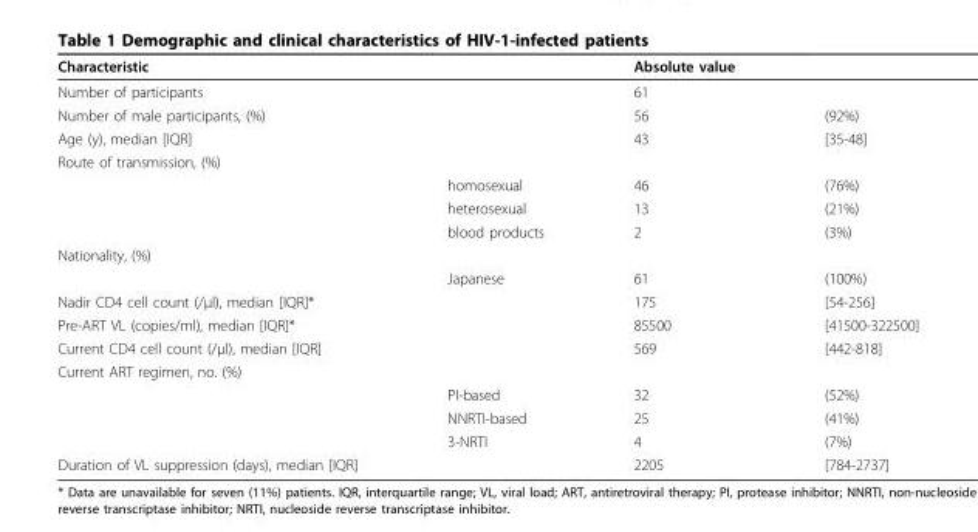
<table><thead><tr><td>Characteristic</td><td></td><td>Absolute value</td><td></td></tr></thead><tbody><tr><td>Number of participants</td><td></td><td>61</td><td></td></tr><tr><td>Number of male participants, (%)</td><td></td><td>56</td><td>(92%)</td></tr><tr><td>Age (y), median [IQR]</td><td></td><td>43</td><td>[35-48]</td></tr><tr><td colspan="4">Route of transmission, (%)</td></tr><tr><td></td><td>homosexual</td><td>46</td><td>(76%)</td></tr><tr><td></td><td>heterosexual</td><td>13</td><td>(21%)</td></tr><tr><td></td><td>blood products</td><td>2</td><td>(3%)</td></tr><tr><td colspan="4">Nationality, (%)</td></tr><tr><td></td><td>Japanese</td><td>61</td><td>(100%)</td></tr><tr><td>Nadir CD4 cell count (/μl), median [IQR]*</td><td></td><td>175</td><td>[54-256]</td></tr><tr><td>Pre-ART VL (copies/ml), median [IQR]*</td><td></td><td>85500</td><td>[41500-322500]</td></tr><tr><td>Current CD4 cell count (/μl), median [IQR]</td><td></td><td>569</td><td>[442-818]</td></tr><tr><td colspan="4">Current ART regimen, no. (%)</td></tr><tr><td></td><td>PI-based</td><td>32</td><td>(52%)</td></tr><tr><td></td><td>NNRTI-based</td><td>25</td><td>(41%)</td></tr><tr><td></td><td>3-NRTI</td><td>4</td><td>(7%)</td></tr><tr><td>Duration of VL suppression (days), median [IQR]</td><td></td><td>2205</td><td>[784-2737]</td></tr></tbody></table>